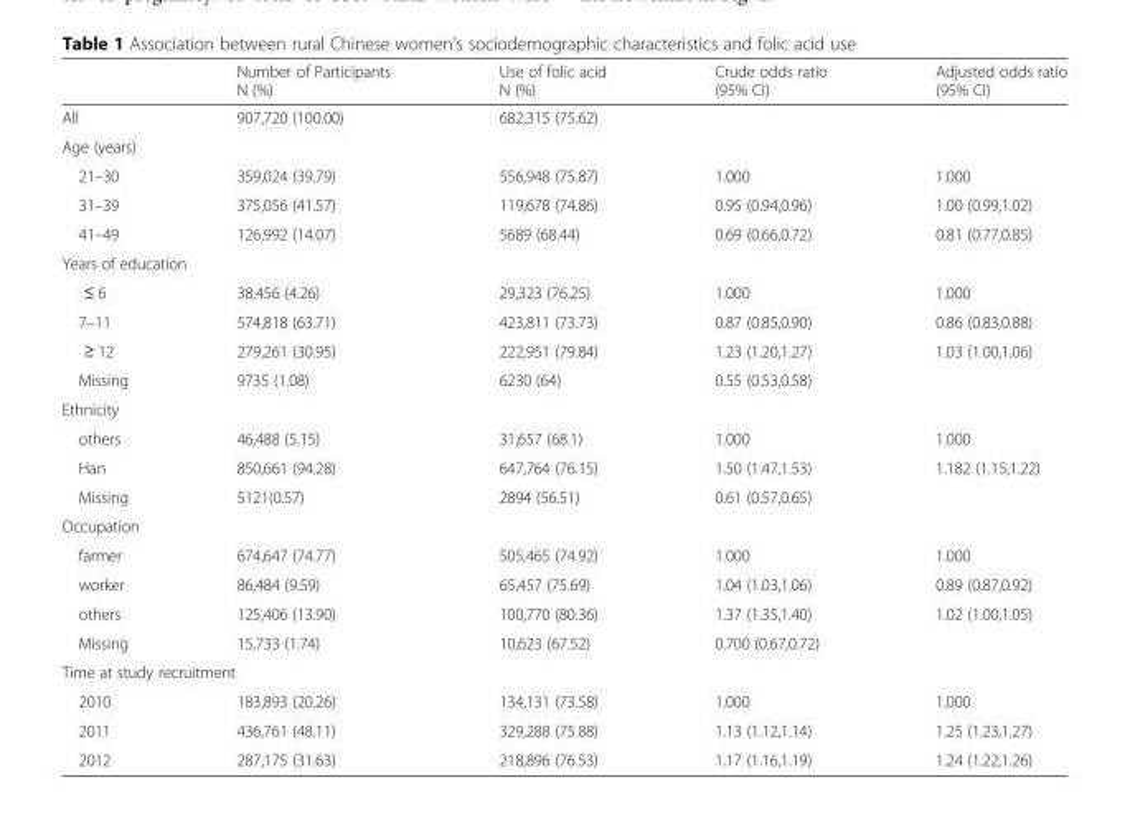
<table><thead><tr><td></td><td>Number of Participants N (%)</td><td>Use of folic acid N (%)</td><td>Crude odds ratio (95% CI)</td><td>Adjusted odds ratio (95% CI)</td></tr></thead><tbody><tr><td>All</td><td>907,720 (100.00)</td><td>682,315 (75.62)</td><td></td><td></td></tr><tr><td colspan="5">Age (years)</td></tr><tr><td>21–30</td><td>359,024 (39.79)</td><td>556,948 (75.87)</td><td>1.000</td><td>1.000</td></tr><tr><td>31–39</td><td>375,056 (41.57)</td><td>119,678 (74.86)</td><td>0.95 (0.94,0.96)</td><td>1.00 (0.99,1.02)</td></tr><tr><td>41–49</td><td>126,992 (14.07)</td><td>5689 (68.44)</td><td>0.69 (0.66,0.72)</td><td>0.81 (0.77,0.85)</td></tr><tr><td colspan="5">Years of education</td></tr><tr><td>≤ 6</td><td>38,456 (4.26)</td><td>29,323 (76.25)</td><td>1.000</td><td>1.000</td></tr><tr><td>7–11</td><td>574,818 (63.71)</td><td>423,811 (73.73)</td><td>0.87 (0.85,0.90)</td><td>0.86 (0.83,0.88)</td></tr><tr><td>≥ 12</td><td>279,261 (30.95)</td><td>222,951 (79.84)</td><td>1.23 (1.20,1.27)</td><td>1.03 (1.00,1.06)</td></tr><tr><td>Missing</td><td>9735 (1.08)</td><td>6230 (64)</td><td>0.55 (0.53,0.58)</td><td></td></tr><tr><td colspan="5">Ethnicity</td></tr><tr><td>others</td><td>46,488 (5.15)</td><td>31,657 (68.1)</td><td>1.000</td><td>1.000</td></tr><tr><td>Han</td><td>850,661 (94.28)</td><td>647,764 (76.15)</td><td>1.50 (1.47,1.53)</td><td>1.182 (1.15,1.22)</td></tr><tr><td>Missing</td><td>5121(0.57)</td><td>2894 (56.51)</td><td>0.61 (0.57,0.65)</td><td></td></tr><tr><td colspan="5">Occupation</td></tr><tr><td>farmer</td><td>674,647 (74.77)</td><td>505,465 (74.92)</td><td>1.000</td><td>1.000</td></tr><tr><td>worker</td><td>86,484 (9.59)</td><td>65,457 (75.69)</td><td>1.04 (1.03,1.06)</td><td>0.89 (0.87,0.92)</td></tr><tr><td>others</td><td>125,406 (13.90)</td><td>100,770 (80.36)</td><td>1.37 (1.35,1.40)</td><td>1.02 (1.00,1.05)</td></tr><tr><td>Missing</td><td>15,733 (1.74)</td><td>10,623 (67.52)</td><td>0.700 (0.67,0.72)</td><td></td></tr><tr><td colspan="5">Time at study recruitment</td></tr><tr><td>2010</td><td>183,893 (20.26)</td><td>134,131 (73.58)</td><td>1.000</td><td>1.000</td></tr><tr><td>2011</td><td>436,761 (48.11)</td><td>329,288 (75.88)</td><td>1.13 (1.12,1.14)</td><td>1.25 (1.23,1.27)</td></tr><tr><td>2012</td><td>287,175 (31.63)</td><td>218,896 (76.53)</td><td>1.17 (1.16,1.19)</td><td>1.24 (1.22,1.26)</td></tr></tbody></table>